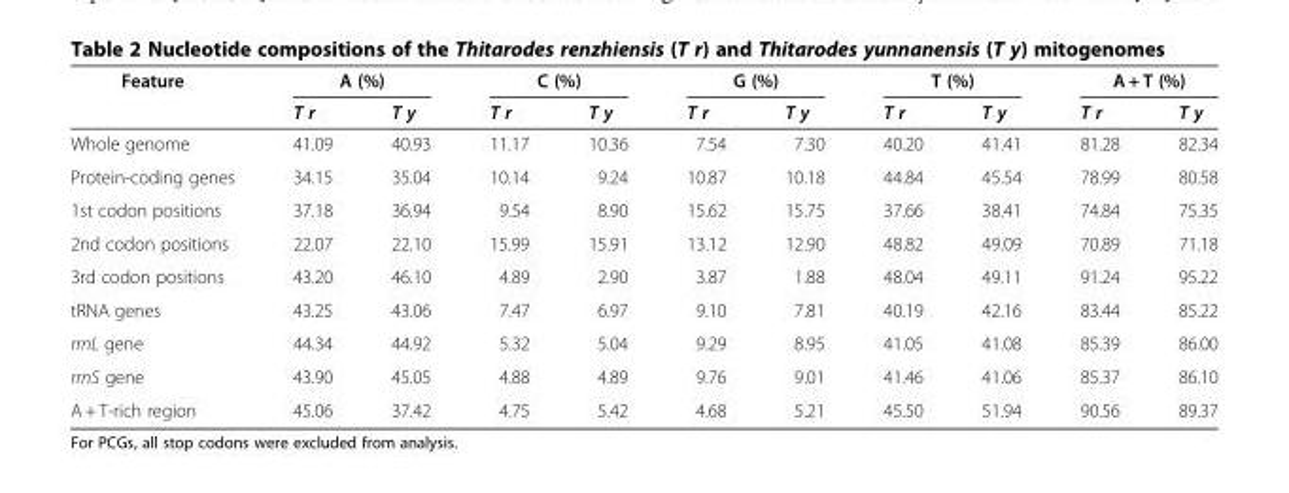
<table><thead><tr><td rowspan="2">Feature</td><td colspan="2">A (%)</td><td colspan="2">C (%)</td><td colspan="2">G (%)</td><td colspan="2">T (%)</td><td colspan="2">A + T (%)</td></tr><tr><td>T r</td><td>T y</td><td>T r</td><td>T y</td><td>T r</td><td>T y</td><td>T r</td><td>T y</td><td>T r</td><td>T y</td></tr></thead><tbody><tr><td>Whole genome</td><td>41.09</td><td>40.93</td><td>11.17</td><td>10.36</td><td>7.54</td><td>7.30</td><td>40.20</td><td>41.41</td><td>81.28</td><td>82.34</td></tr><tr><td>Protein-coding genes</td><td>34.15</td><td>35.04</td><td>10.14</td><td>9.24</td><td>10.87</td><td>10.18</td><td>44.84</td><td>45.54</td><td>78.99</td><td>80.58</td></tr><tr><td>1st codon positions</td><td>37.18</td><td>36.94</td><td>9.54</td><td>8.90</td><td>15.62</td><td>15.75</td><td>37.66</td><td>38.41</td><td>74.84</td><td>75.35</td></tr><tr><td>2nd codon positions</td><td>22.07</td><td>22.10</td><td>15.99</td><td>15.91</td><td>13.12</td><td>12.90</td><td>48.82</td><td>49.09</td><td>70.89</td><td>71.18</td></tr><tr><td>3rd codon positions</td><td>43.20</td><td>46.10</td><td>4.89</td><td>2.90</td><td>3.87</td><td>1.88</td><td>48.04</td><td>49.11</td><td>91.24</td><td>95.22</td></tr><tr><td>tRNA genes</td><td>43.25</td><td>43.06</td><td>7.47</td><td>6.97</td><td>9.10</td><td>7.81</td><td>40.19</td><td>42.16</td><td>83.44</td><td>85.22</td></tr><tr><td>rrnL gene</td><td>44.34</td><td>44.92</td><td>5.32</td><td>5.04</td><td>9.29</td><td>8.95</td><td>41.05</td><td>41.08</td><td>85.39</td><td>86.00</td></tr><tr><td>rrnS gene</td><td>43.90</td><td>45.05</td><td>4.88</td><td>4.89</td><td>9.76</td><td>9.01</td><td>41.46</td><td>41.06</td><td>85.37</td><td>86.10</td></tr><tr><td>A + T-rich region</td><td>45.06</td><td>37.42</td><td>4.75</td><td>5.42</td><td>4.68</td><td>5.21</td><td>45.50</td><td>51.94</td><td>90.56</td><td>89.37</td></tr></tbody></table>